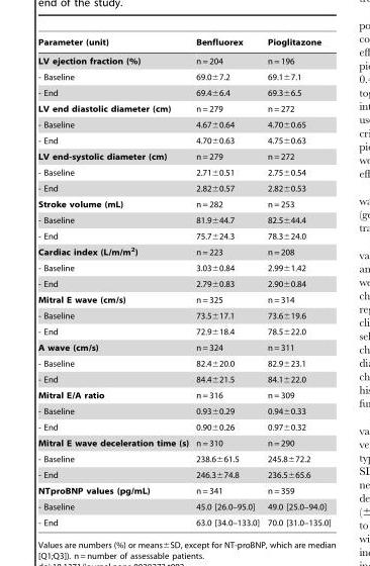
<table><thead><tr><td>Parameter (unit)</td><td>Benfluorex</td><td>Pioglitazone</td></tr></thead><tbody><tr><td>LV ejection fraction (%)</td><td>n = 204</td><td>n = 196</td></tr><tr><td>- Baseline</td><td>69.0±7.2</td><td>69.1±7.1</td></tr><tr><td>- End</td><td>69.4±6.4</td><td>69.3±6.5</td></tr><tr><td>LV end diastolic diameter (cm)</td><td>n = 279</td><td>n = 272</td></tr><tr><td>- Baseline</td><td>4.67±0.64</td><td>4.70±0.65</td></tr><tr><td>- End</td><td>4.70±0.63</td><td>4.75±0.63</td></tr><tr><td>LV end-systolic diameter (cm)</td><td>n = 279</td><td>n = 272</td></tr><tr><td>- Baseline</td><td>2.71±0.51</td><td>2.75±0.54</td></tr><tr><td>- End</td><td>2.82±0.57</td><td>2.82±0.53</td></tr><tr><td>Stroke volume (mL)</td><td>n = 282</td><td>n = 253</td></tr><tr><td>- Baseline</td><td>81.9±44.7</td><td>82.5±44.4</td></tr><tr><td>- End</td><td>75.7±24.3</td><td>78.3±24.0</td></tr><tr><td>Cardiac index (L/m/m<sup>2</sup>)</td><td>n = 223</td><td>n = 208</td></tr><tr><td>- Baseline</td><td>3.03±0.84</td><td>2.99±1.42</td></tr><tr><td>- End</td><td>2.79±0.83</td><td>2.90±0.84</td></tr><tr><td>Mitral E wave (cm/s)</td><td>n = 325</td><td>n = 314</td></tr><tr><td>- Baseline</td><td>73.5±17.1</td><td>73.6±19.6</td></tr><tr><td>- End</td><td>72.9±18.4</td><td>78.5±22.0</td></tr><tr><td>A wave (cm/s)</td><td>n = 324</td><td>n = 311</td></tr><tr><td>- Baseline</td><td>82.4±20.0</td><td>82.9±23.1</td></tr><tr><td>- End</td><td>84.4±21.5</td><td>84.1±22.0</td></tr><tr><td>Mitral E/A ratio</td><td>n = 316</td><td>n = 309</td></tr><tr><td>- Baseline</td><td>0.93±0.29</td><td>0.94±0.33</td></tr><tr><td>- End</td><td>0.90±0.26</td><td>0.97±0.32</td></tr><tr><td>Mitral E wave deceleration time (s)</td><td>n = 310</td><td>n = 290</td></tr><tr><td>- Baseline</td><td>238.6±61.5</td><td>245.8±72.2</td></tr><tr><td>- End</td><td>246.3±74.8</td><td>236.5±65.6</td></tr><tr><td>NTproBNP values (pg/mL)</td><td>n = 341</td><td>n = 359</td></tr><tr><td>- Baseline</td><td>45.0 [26.0–95.0]</td><td>49.0 [25.0–94.0]</td></tr><tr><td>- End</td><td>63.0 [34.0–133.0]</td><td>70.0 [31.0–135.0]</td></tr></tbody></table>